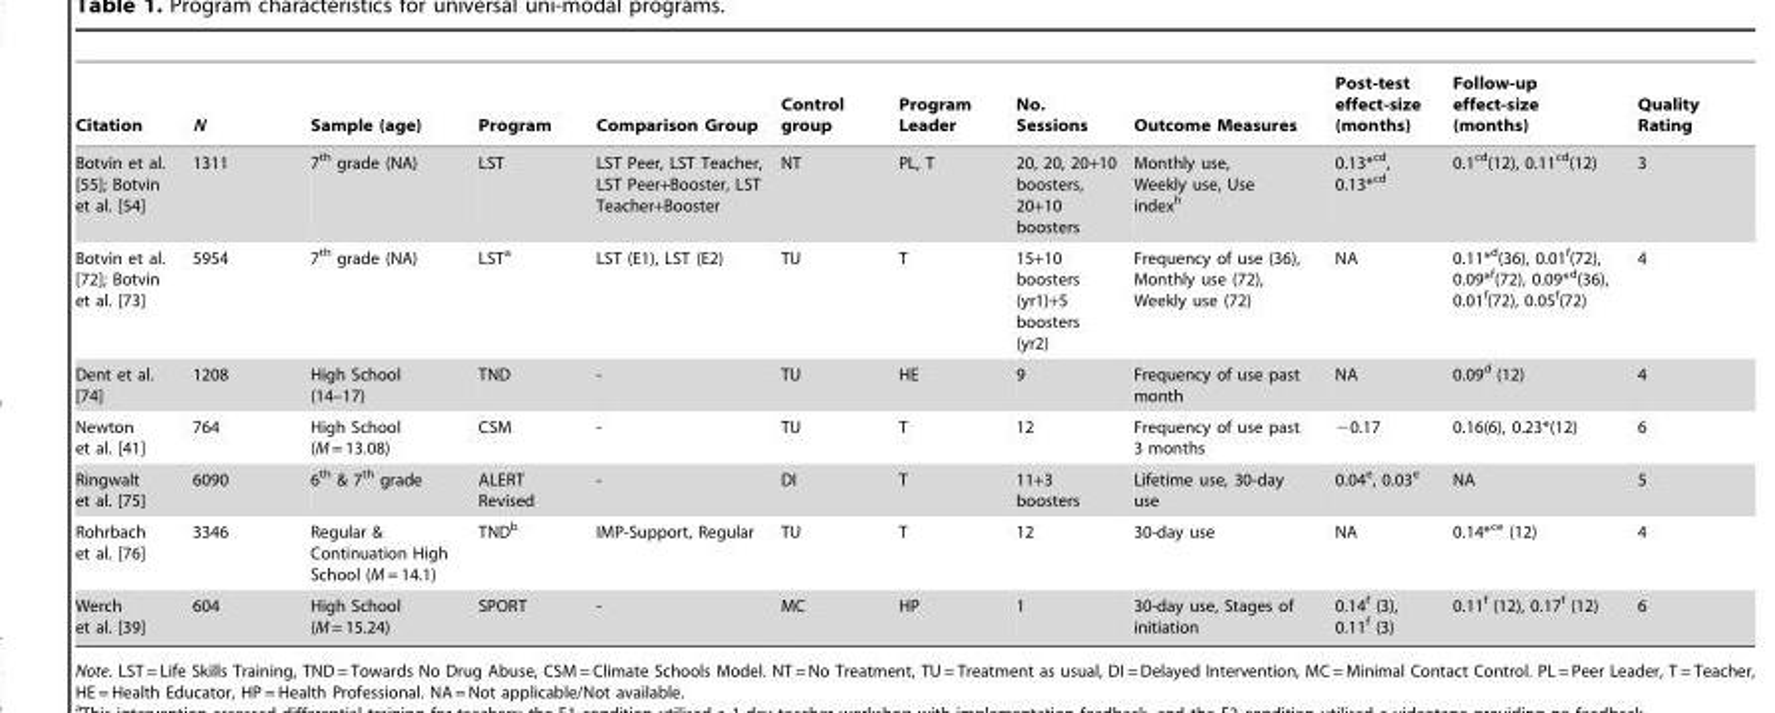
<table><thead><tr><td>Citation</td><td>N</td><td>Sample (age)</td><td>Program</td><td>Comparison Group</td><td>Control group</td><td>Program Leader</td><td>No. Sessions</td><td>Outcome Measures</td><td>Post-test effect-size (months)</td><td>Follow-up effect-size (months)</td><td>Quality Rating</td></tr></thead><tbody><tr><td>Botvin et al. [55]; Botvin et al. [54]</td><td>1311</td><td>7<sup>th</sup> grade (NA)</td><td>LST</td><td>LST Peer, LST Teacher, LST Peer+Booster, LST Teacher+Booster</td><td>NT</td><td>PL, T</td><td>20, 20, 20+10 boosters, 20+10 boosters</td><td>Monthly use, Weekly use, Use index<sup>h</sup></td><td>0.13*cd, 0.13*cd</td><td>0.1<sup>cd</sup>(12), 0.11<sup>cd</sup>(12)</td><td>3</td></tr><tr><td>Botvin et al. [72]; Botvin et al. [73]</td><td>5954</td><td>7<sup>th</sup> grade (NA)</td><td>LST<sup>a</sup></td><td>LST (E1), LST (E2)</td><td>TU</td><td>T</td><td>15+10 boosters (yr1)+5 boosters (yr2)</td><td>Frequency of use (36), Monthly use (72), Weekly use (72)</td><td>NA</td><td>0.11*d(36), 0.01<sup>f</sup>(72), 0.09*f(72), 0.09*d(36), 0.01<sup>f</sup>(72), 0.05<sup>f</sup>(72)</td><td>4</td></tr><tr><td>Dent et al. [74]</td><td>1208</td><td>High School (14–17)</td><td>TND</td><td>-</td><td>TU</td><td>HE</td><td>9</td><td>Frequency of use past month</td><td>NA</td><td>0.09<sup>d</sup> (12)</td><td>4</td></tr><tr><td>Newton et al. [41]</td><td>764</td><td>High School (M = 13.08)</td><td>CSM</td><td>-</td><td>TU</td><td>T</td><td>12</td><td>Frequency of use past 3 months</td><td>−0.17</td><td>0.16(6), 0.23*(12)</td><td>6</td></tr><tr><td>Ringwalt et al. [75]</td><td>6090</td><td>6<sup>th</sup> &amp; 7<sup>th</sup> grade</td><td>ALERT Revised</td><td>-</td><td>DI</td><td>T</td><td>11+3 boosters</td><td>Lifetime use, 30-day use</td><td>0.04<sup>e</sup>, 0.03<sup>e</sup></td><td>NA</td><td>5</td></tr><tr><td>Rohrbach et al. [76]</td><td>3346</td><td>Regular &amp; Continuation High School (M = 14.1)</td><td>TND<sup>b</sup></td><td>IMP-Support, Regular</td><td>TU</td><td>T</td><td>12</td><td>30-day use</td><td>NA</td><td>0.14*ce (12)</td><td>4</td></tr><tr><td>Werch et al. [39]</td><td>604</td><td>High School (M = 15.24)</td><td>SPORT</td><td>-</td><td>MC</td><td>HP</td><td>1</td><td>30-day use, Stages of initiation</td><td>0.14<sup>f</sup> (3), 0.11<sup>f</sup> (3)</td><td>0.11<sup>f</sup> (12), 0.17<sup>f</sup> (12)</td><td>6</td></tr></tbody></table>